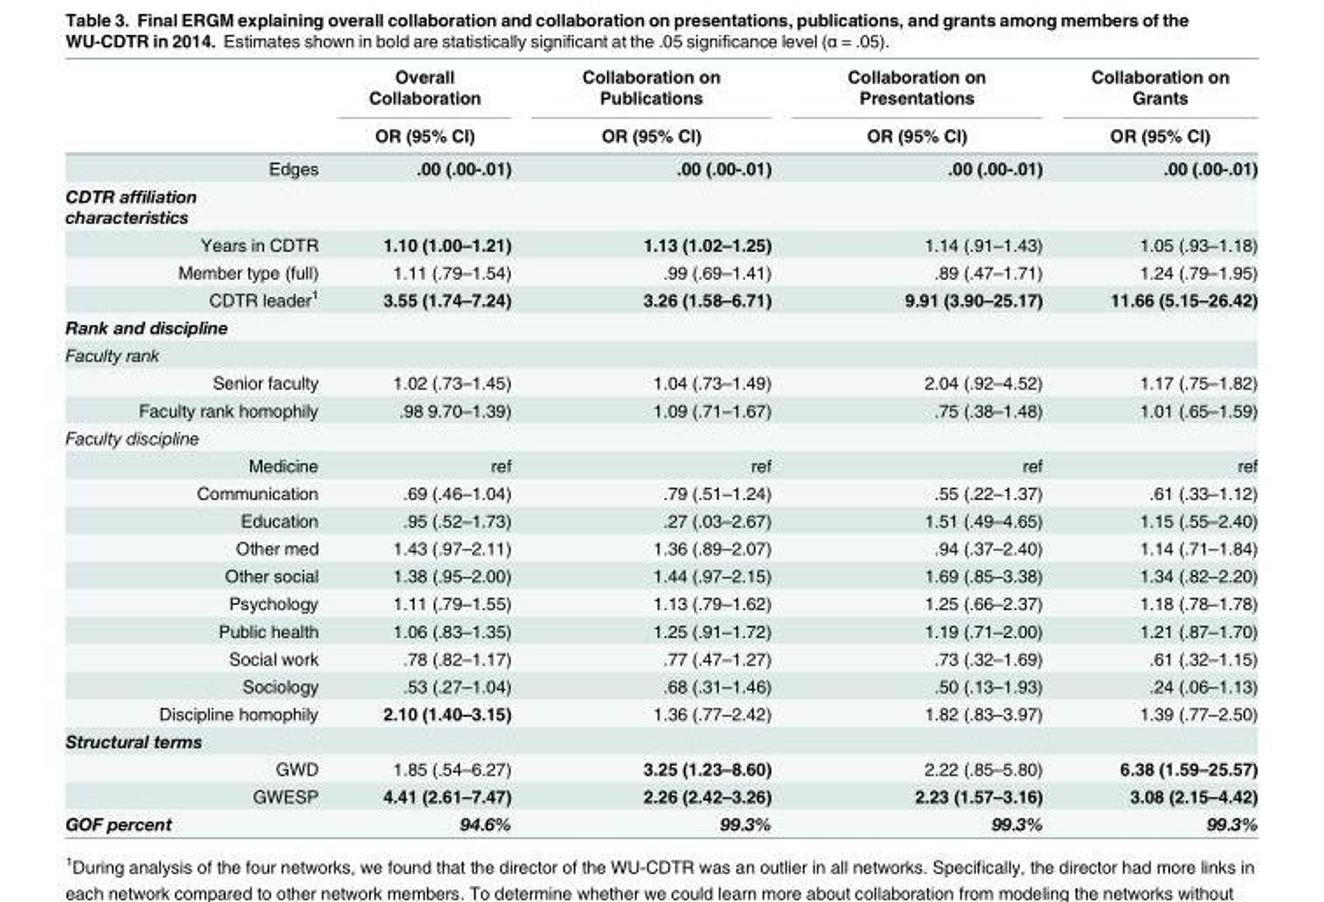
<table><thead><tr><td rowspan="2"></td><td rowspan="2">Overall Collaboration OR (95% CI)</td><td rowspan="2">Collaboration on Publications OR (95% CI)</td><td rowspan="2">Collaboration on Presentations OR (95% CI)</td><td rowspan="2">Collaboration on Grants OR (95% CI)</td></tr><tr></tr></thead><tbody><tr><td>Edges</td><td>.00 (.00-.01)</td><td>.00 (.00-.01)</td><td>.00 (.00-.01)</td><td>.00 (.00-.01)</td></tr><tr><td colspan="5">CDTR affiliation characteristics</td></tr><tr><td>Years in CDTR</td><td>1.10 (1.00–1.21)</td><td>1.13 (1.02–1.25)</td><td>1.14 (.91–1.43)</td><td>1.05 (.93–1.18)</td></tr><tr><td>Member type (full)</td><td>1.11 (.79–1.54)</td><td>.99 (.69–1.41)</td><td>.89 (.47–1.71)</td><td>1.24 (.79–1.95)</td></tr><tr><td>CDTR leader<sup>1</sup></td><td>3.55 (1.74–7.24)</td><td>3.26 (1.58–6.71)</td><td>9.91 (3.90–25.17)</td><td>11.66 (5.15–26.42)</td></tr><tr><td colspan="5">Rank and discipline</td></tr><tr><td colspan="5">Faculty rank</td></tr><tr><td>Senior faculty</td><td>1.02 (.73–1.45)</td><td>1.04 (.73–1.49)</td><td>2.04 (.92–4.52)</td><td>1.17 (.75–1.82)</td></tr><tr><td>Faculty rank homophily</td><td>.98 9.70–1.39)</td><td>1.09 (.71–1.67)</td><td>.75 (.38–1.48)</td><td>1.01 (.65–1.59)</td></tr><tr><td colspan="5">Faculty discipline</td></tr><tr><td>Medicine</td><td>ref</td><td>ref</td><td>ref</td><td>ref</td></tr><tr><td>Communication</td><td>.69 (.46–1.04)</td><td>.79 (.51–1.24)</td><td>.55 (.22–1.37)</td><td>.61 (.33–1.12)</td></tr><tr><td>Education</td><td>.95 (.52–1.73)</td><td>.27 (.03–2.67)</td><td>1.51 (.49–4.65)</td><td>1.15 (.55–2.40)</td></tr><tr><td>Other med</td><td>1.43 (.97–2.11)</td><td>1.36 (.89–2.07)</td><td>.94 (.37–2.40)</td><td>1.14 (.71–1.84)</td></tr><tr><td>Other social</td><td>1.38 (.95–2.00)</td><td>1.44 (.97–2.15)</td><td>1.69 (.85–3.38)</td><td>1.34 (.82–2.20)</td></tr><tr><td>Psychology</td><td>1.11 (.79–1.55)</td><td>1.13 (.79–1.62)</td><td>1.25 (.66–2.37)</td><td>1.18 (.78–1.78)</td></tr><tr><td>Public health</td><td>1.06 (.83–1.35)</td><td>1.25 (.91–1.72)</td><td>1.19 (.71–2.00)</td><td>1.21 (.87–1.70)</td></tr><tr><td>Social work</td><td>.78 (.82–1.17)</td><td>.77 (.47–1.27)</td><td>.73 (.32–1.69)</td><td>.61 (.32–1.15)</td></tr><tr><td>Sociology</td><td>.53 (.27–1.04)</td><td>.68 (.31–1.46)</td><td>.50 (.13–1.93)</td><td>.24 (.06–1.13)</td></tr><tr><td>Discipline homophily</td><td>2.10 (1.40–3.15)</td><td>1.36 (.77–2.42)</td><td>1.82 (.83–3.97)</td><td>1.39 (.77–2.50)</td></tr><tr><td colspan="5">Structural terms</td></tr><tr><td>GWD</td><td>1.85 (.54–6.27)</td><td>3.25 (1.23–8.60)</td><td>2.22 (.85–5.80)</td><td>6.38 (1.59–25.57)</td></tr><tr><td>GWESP</td><td>4.41 (2.61–7.47)</td><td>2.26 (2.42–3.26)</td><td>2.23 (1.57–3.16)</td><td>3.08 (2.15–4.42)</td></tr><tr><td>GOF percent</td><td>94.6%</td><td>99.3%</td><td>99.3%</td><td>99.3%</td></tr></tbody></table>